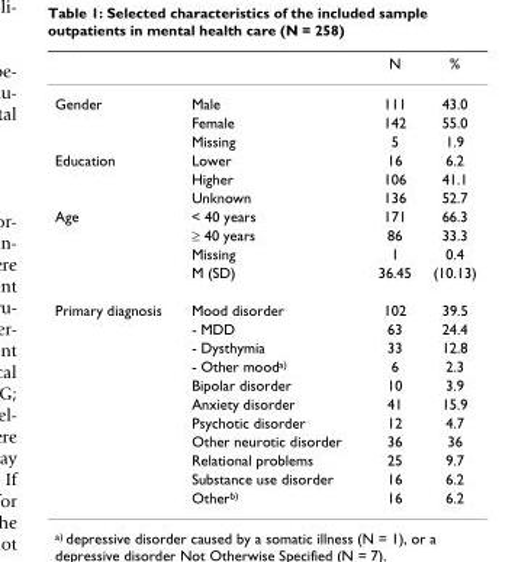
<table><thead><tr><td></td><td></td><td>N</td><td>%</td></tr></thead><tbody><tr><td rowspan="3">Gender</td><td>Male</td><td>111</td><td>43.0</td></tr><tr><td>Female</td><td>142</td><td>55.0</td></tr><tr><td>Missing</td><td>5</td><td>1.9</td></tr><tr><td rowspan="3">Education</td><td>Lower</td><td>16</td><td>6.2</td></tr><tr><td>Higher</td><td>106</td><td>41.1</td></tr><tr><td>Unknown</td><td>136</td><td>52.7</td></tr><tr><td rowspan="4">Age</td><td>&lt; 40 years</td><td>171</td><td>66.3</td></tr><tr><td>≥ 40 years</td><td>86</td><td>33.3</td></tr><tr><td>Missing</td><td>1</td><td>0.4</td></tr><tr><td>M (SD)</td><td>36.45</td><td>(10.13)</td></tr><tr><td rowspan="11">Primary diagnosis</td><td>Mood disorder</td><td>102</td><td>39.5</td></tr><tr><td>- MDD</td><td>63</td><td>24.4</td></tr><tr><td>- Dysthymia</td><td>33</td><td>12.8</td></tr><tr><td>- Other mood<sup>a)</sup></td><td>6</td><td>2.3</td></tr><tr><td>Bipolar disorder</td><td>10</td><td>3.9</td></tr><tr><td>Anxiety disorder</td><td>41</td><td>15.9</td></tr><tr><td>Psychotic disorder</td><td>12</td><td>4.7</td></tr><tr><td>Other neurotic disorder</td><td>36</td><td>36</td></tr><tr><td>Relational problems</td><td>25</td><td>9.7</td></tr><tr><td>Substance use disorder</td><td>16</td><td>6.2</td></tr><tr><td>Other<sup>b)</sup></td><td>16</td><td>6.2</td></tr></tbody></table>